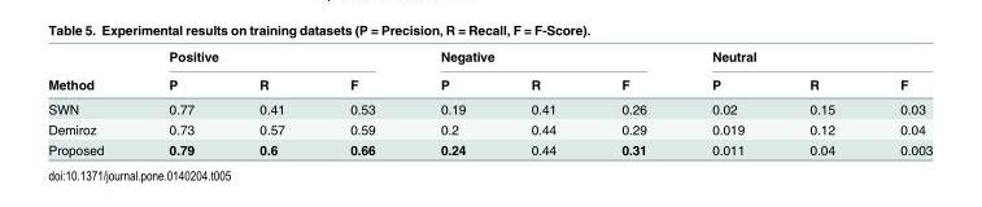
<table><thead><tr><td rowspan="2">Method</td><td colspan="3">Positive</td><td colspan="3">Negative</td><td colspan="3">Neutral</td></tr><tr><td>P</td><td>R</td><td>F</td><td>P</td><td>R</td><td>F</td><td>P</td><td>R</td><td>F</td></tr></thead><tbody><tr><td>SWN</td><td>0.77</td><td>0.41</td><td>0.53</td><td>0.19</td><td>0.41</td><td>0.26</td><td>0.02</td><td>0.15</td><td>0.03</td></tr><tr><td>Demiroz</td><td>0.73</td><td>0.57</td><td>0.59</td><td>0.2</td><td>0.44</td><td>0.29</td><td>0.019</td><td>0.12</td><td>0.04</td></tr><tr><td>Proposed</td><td>0.79</td><td>0.6</td><td>0.66</td><td>0.24</td><td>0.44</td><td>0.31</td><td>0.011</td><td>0.04</td><td>0.003</td></tr></tbody></table>